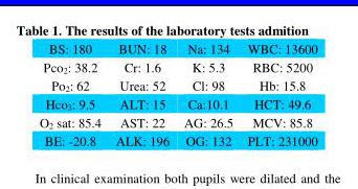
<table><thead><tr><td>BS: 180</td><td>BUN: 18</td><td>Na: 134</td><td>WBC: 13600</td></tr></thead><tbody><tr><td>Pco<sub>2</sub>: 38.2</td><td>Cr: 1.6</td><td>K: 5.3</td><td>RBC: 5200</td></tr><tr><td>Po<sub>2</sub>: 62</td><td>Urea: 52</td><td>Cl: 98</td><td>Hb: 15.8</td></tr><tr><td>Hco<sub>3</sub>: 9.5</td><td>ALT: 15</td><td>Ca:10.1</td><td>HCT: 49.6</td></tr><tr><td>O<sub>2</sub> sat: 85.4</td><td>AST: 22</td><td>AG: 26.5</td><td>MCV: 85.8</td></tr><tr><td>BE: -20.8</td><td>ALK: 196</td><td>OG: 132</td><td>PLT: 231000</td></tr></tbody></table>